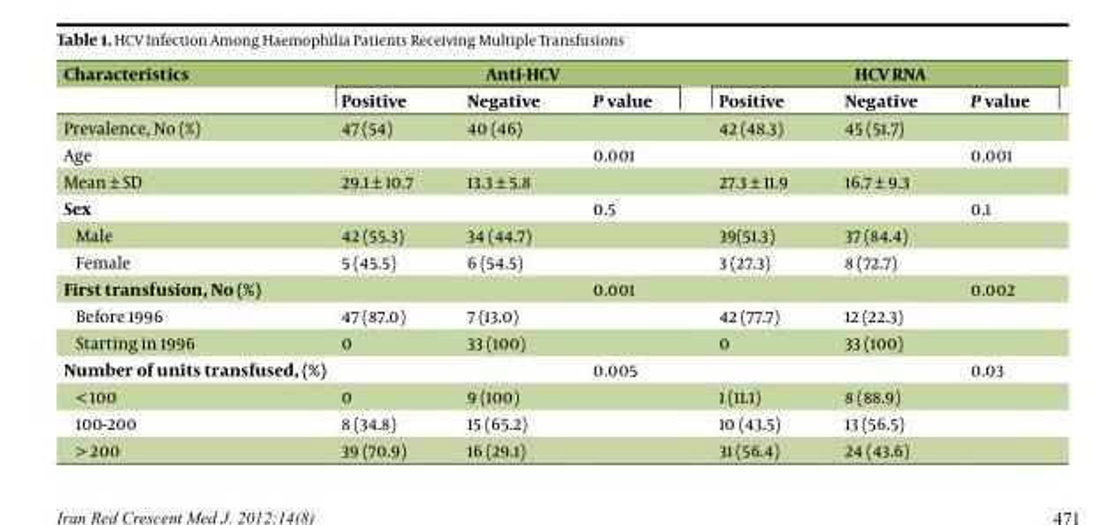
<table><thead><tr><td rowspan="2">Characteristics</td><td colspan="3">Anti-HCV</td><td colspan="3">HCV RNA</td></tr><tr><td>Positive</td><td>Negative</td><td>P value</td><td>Positive</td><td>Negative</td><td>P value</td></tr></thead><tbody><tr><td>Prevalence, No (%)</td><td>47 (54)</td><td>40 (46)</td><td></td><td>42 (48.3)</td><td>45 (51.7)</td><td></td></tr><tr><td>Age</td><td></td><td></td><td>0.001</td><td></td><td></td><td>0.001</td></tr><tr><td>Mean ± SD</td><td>29.1 ± 10.7</td><td>13.3 ± 5.8</td><td></td><td>27.3 ± 11.9</td><td>16.7 ± 9.3</td><td></td></tr><tr><td>Sex</td><td></td><td></td><td>0.5</td><td></td><td></td><td>0.1</td></tr><tr><td>Male</td><td>42 (55.3)</td><td>34 (44.7)</td><td></td><td>39(51.3)</td><td>37 (84.4)</td><td></td></tr><tr><td>Female</td><td>5 (45.5)</td><td>6 (54.5)</td><td></td><td>3 (27.3)</td><td>8 (72.7)</td><td></td></tr><tr><td>First transfusion, No (%)</td><td></td><td></td><td>0.001</td><td></td><td></td><td>0.002</td></tr><tr><td>Before 1996</td><td>47 (87.0)</td><td>7 (13.0)</td><td></td><td>42 (77.7)</td><td>12 (22.3)</td><td></td></tr><tr><td>Starting in 1996</td><td>0</td><td>33 (100)</td><td></td><td>0</td><td>33 (100)</td><td></td></tr><tr><td>Number of units transfused, (%)</td><td></td><td></td><td>0.005</td><td></td><td></td><td>0.03</td></tr><tr><td>&lt; 100</td><td>0</td><td>9 (100)</td><td></td><td>1 (11.1)</td><td>8 (88.9)</td><td></td></tr><tr><td>100-200</td><td>8 (34.8)</td><td>15 (65.2)</td><td></td><td>10 (43.5)</td><td>13 (56.5)</td><td></td></tr><tr><td>&gt; 200</td><td>39 (70.9)</td><td>16 (29.1)</td><td></td><td>31 (56.4)</td><td>24 (43.6)</td><td></td></tr></tbody></table>